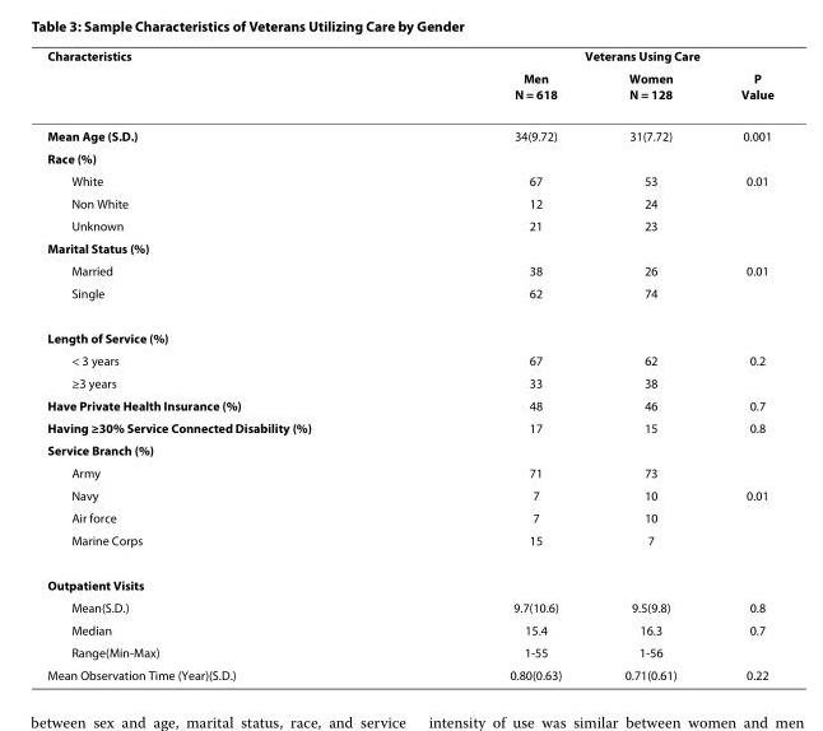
<table><thead><tr><td rowspan="2">Characteristics</td><td colspan="3">Veterans Using Care</td></tr><tr><td>Men N = 618</td><td>Women N = 128</td><td>P Value</td></tr></thead><tbody><tr><td>Mean Age (S.D.)</td><td>34(9.72)</td><td>31(7.72)</td><td>0.001</td></tr><tr><td colspan="4">Race (%)</td></tr><tr><td>White</td><td>67</td><td>53</td><td>0.01</td></tr><tr><td>Non White</td><td>12</td><td>24</td><td></td></tr><tr><td>Unknown</td><td>21</td><td>23</td><td></td></tr><tr><td colspan="4">Marital Status (%)</td></tr><tr><td>Married</td><td>38</td><td>26</td><td>0.01</td></tr><tr><td>Single</td><td>62</td><td>74</td><td></td></tr><tr><td colspan="4">Length of Service (%)</td></tr><tr><td>&lt; 3 years</td><td>67</td><td>62</td><td>0.2</td></tr><tr><td>≥3 years</td><td>33</td><td>38</td><td></td></tr><tr><td>Have Private Health Insurance (%)</td><td>48</td><td>46</td><td>0.7</td></tr><tr><td>Having ≥30% Service Connected Disability (%)</td><td>17</td><td>15</td><td>0.8</td></tr><tr><td colspan="4">Service Branch (%)</td></tr><tr><td>Army</td><td>71</td><td>73</td><td></td></tr><tr><td>Navy</td><td>7</td><td>10</td><td>0.01</td></tr><tr><td>Air force</td><td>7</td><td>10</td><td></td></tr><tr><td>Marine Corps</td><td>15</td><td>7</td><td></td></tr><tr><td colspan="4">Outpatient Visits</td></tr><tr><td>Mean(S.D.)</td><td>9.7(10.6)</td><td>9.5(9.8)</td><td>0.8</td></tr><tr><td>Median</td><td>15.4</td><td>16.3</td><td>0.7</td></tr><tr><td>Range(Min-Max)</td><td>1-55</td><td>1-56</td><td></td></tr><tr><td>Mean Observation Time (Year)(S.D.)</td><td>0.80(0.63)</td><td>0.71(0.61)</td><td>0.22</td></tr></tbody></table>